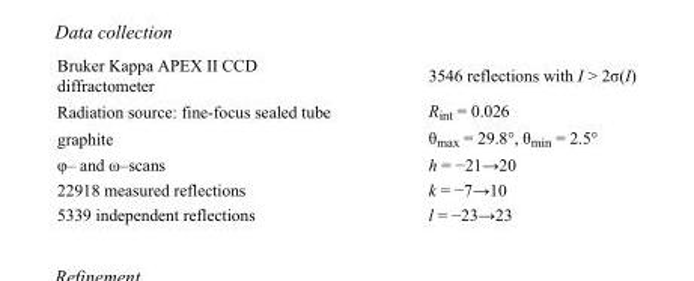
<table><tbody><tr><td>Bruker Kappa APEX II CCD diffractometer</td><td>3546 reflections with I &gt; 2σ(I)</td></tr><tr><td>Radiation source: fine-focus sealed tube</td><td>R<sub>int</sub> = 0.026</td></tr><tr><td>graphite</td><td>θ<sub>max</sub> = 29.8°, θ<sub>min</sub> = 2.5°</td></tr><tr><td>φ– and ω–scans</td><td>h = −21→20</td></tr><tr><td>22918 measured reflections</td><td>k = −7→10</td></tr><tr><td>5339 independent reflections</td><td>l = −23→23</td></tr></tbody></table>